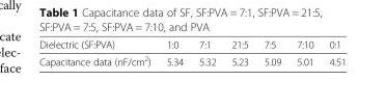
<table><thead><tr><td>Dielectric (SF:PVA)</td><td>1:0</td><td>7:1</td><td>21:5</td><td>7:5</td><td>7:10</td><td>0:1</td></tr></thead><tbody><tr><td>Capacitance data (nF/cm<sup>2</sup>)</td><td>5.34</td><td>5.32</td><td>5.23</td><td>5.09</td><td>5.01</td><td>4.51</td></tr></tbody></table>